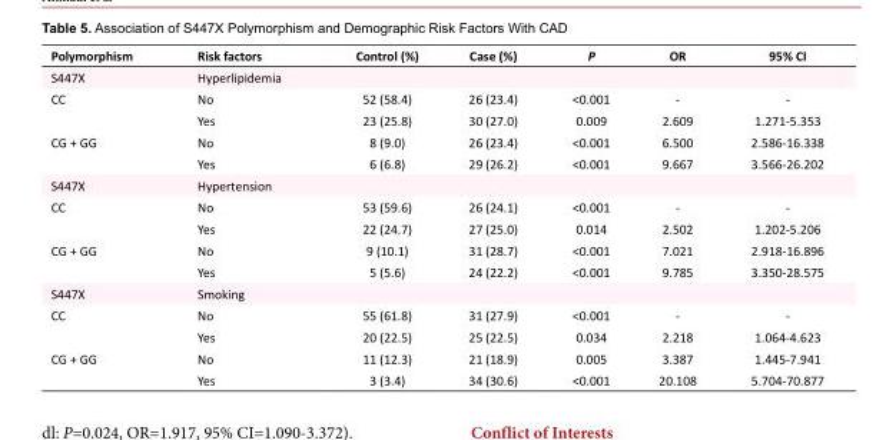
<table><tbody><tr><td>Polymorphism</td><td>Risk factors</td><td>Control (%)</td><td>Case (%)</td><td>P</td><td>OR</td><td>95% CI</td></tr><tr><td>S447X</td><td>Hyperlipidemia</td><td></td><td></td><td></td><td></td><td></td></tr><tr><td rowspan="2">CC</td><td>No</td><td>52 (58.4)</td><td>26 (23.4)</td><td>&lt;0.001</td><td>-</td><td>-</td></tr><tr><td>Yes</td><td>23 (25.8)</td><td>30 (27.0)</td><td>0.009</td><td>2.609</td><td>1.271-5.353</td></tr><tr><td rowspan="2">CG + GG</td><td>No</td><td>8 (9.0)</td><td>26 (23.4)</td><td>&lt;0.001</td><td>6.500</td><td>2.586-16.338</td></tr><tr><td>Yes</td><td>6 (6.8)</td><td>29 (26.2)</td><td>&lt;0.001</td><td>9.667</td><td>3.566-26.202</td></tr><tr><td>S447X</td><td>Hypertension</td><td></td><td></td><td></td><td></td><td></td></tr><tr><td rowspan="2">CC</td><td>No</td><td>53 (59.6)</td><td>26 (24.1)</td><td>&lt;0.001</td><td>-</td><td>-</td></tr><tr><td>Yes</td><td>22 (24.7)</td><td>27 (25.0)</td><td>0.014</td><td>2.502</td><td>1.202-5.206</td></tr><tr><td rowspan="2">CG + GG</td><td>No</td><td>9 (10.1)</td><td>31 (28.7)</td><td>&lt;0.001</td><td>7.021</td><td>2.918-16.896</td></tr><tr><td>Yes</td><td>5 (5.6)</td><td>24 (22.2)</td><td>&lt;0.001</td><td>9.785</td><td>3.350-28.575</td></tr><tr><td>S447X</td><td>Smoking</td><td></td><td></td><td></td><td></td><td></td></tr><tr><td rowspan="2">CC</td><td>No</td><td>55 (61.8)</td><td>31 (27.9)</td><td>&lt;0.001</td><td>-</td><td>-</td></tr><tr><td>Yes</td><td>20 (22.5)</td><td>25 (22.5)</td><td>0.034</td><td>2.218</td><td>1.064-4.623</td></tr><tr><td rowspan="2">CG + GG</td><td>No</td><td>11 (12.3)</td><td>21 (18.9)</td><td>0.005</td><td>3.387</td><td>1.445-7.941</td></tr><tr><td>Yes</td><td>3 (3.4)</td><td>34 (30.6)</td><td>&lt;0.001</td><td>20.108</td><td>5.704-70.877</td></tr></tbody></table>